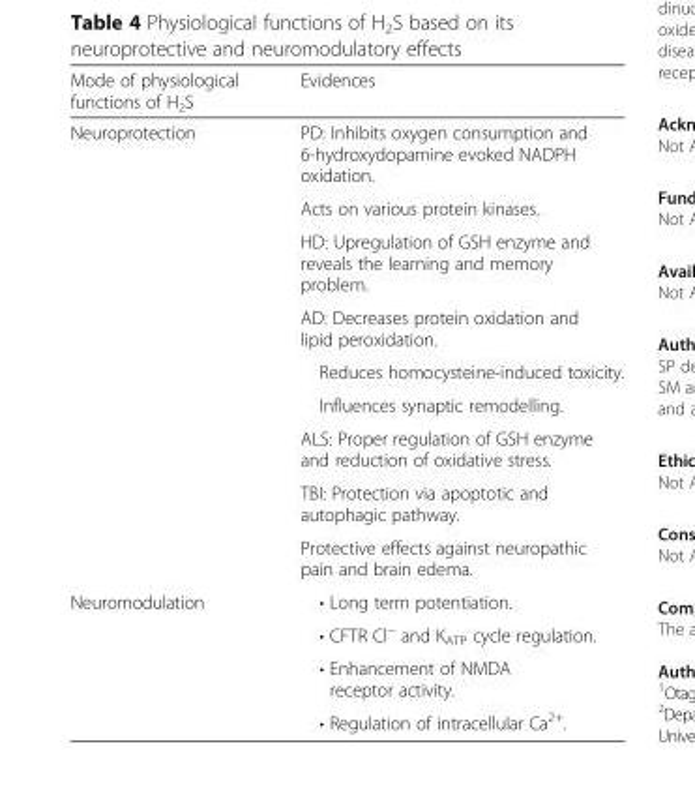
<table><thead><tr><td>Mode of physiological functions of H<sub>2</sub>S</td><td>Evidences</td></tr></thead><tbody><tr><td rowspan="9">Neuroprotection</td><td>PD: Inhibits oxygen consumption and 6-hydroxydopamine evoked NADPH oxidation.</td></tr><tr><td>Acts on various protein kinases.</td></tr><tr><td>HD: Upregulation of GSH enzyme and reveals the learning and memory problem.</td></tr><tr><td>AD: Decreases protein oxidation and lipid peroxidation.</td></tr><tr><td>Reduces homocysteine-induced toxicity.</td></tr><tr><td>Influences synaptic remodelling.</td></tr><tr><td>ALS: Proper regulation of GSH enzyme and reduction of oxidative stress.</td></tr><tr><td>TBI: Protection via apoptotic and autophagic pathway.</td></tr><tr><td>Protective effects against neuropathic pain and brain edema.</td></tr><tr><td rowspan="4">Neuromodulation</td><td>• Long term potentiation.</td></tr><tr><td>• CFTR Cl<sup>−</sup> and K<sub>ATP</sub> cycle regulation.</td></tr><tr><td>• Enhancement of NMDA receptor activity.</td></tr><tr><td>• Regulation of intracellular Ca<sup>2+</sup>.</td></tr></tbody></table>